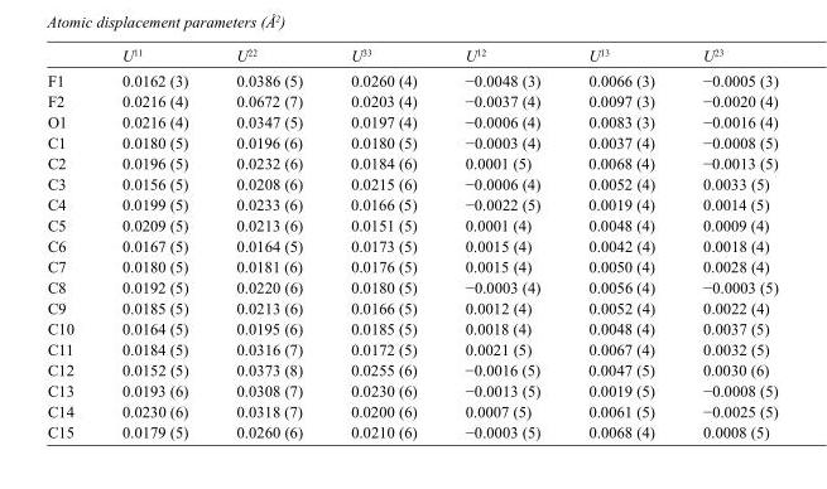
<table><thead><tr><td></td><td>U<sup>11</sup></td><td>U<sup>22</sup></td><td>U<sup>33</sup></td><td>U<sup>12</sup></td><td>U<sup>13</sup></td><td>U<sup>23</sup></td></tr></thead><tbody><tr><td>F1</td><td>0.0162 (3)</td><td>0.0386 (5)</td><td>0.0260 (4)</td><td>−0.0048 (3)</td><td>0.0066 (3)</td><td>−0.0005 (3)</td></tr><tr><td>F2</td><td>0.0216 (4)</td><td>0.0672 (7)</td><td>0.0203 (4)</td><td>−0.0037 (4)</td><td>0.0097 (3)</td><td>−0.0020 (4)</td></tr><tr><td>O1</td><td>0.0216 (4)</td><td>0.0347 (5)</td><td>0.0197 (4)</td><td>−0.0006 (4)</td><td>0.0083 (3)</td><td>−0.0016 (4)</td></tr><tr><td>C1</td><td>0.0180 (5)</td><td>0.0196 (6)</td><td>0.0180 (5)</td><td>−0.0003 (4)</td><td>0.0037 (4)</td><td>−0.0008 (5)</td></tr><tr><td>C2</td><td>0.0196 (5)</td><td>0.0232 (6)</td><td>0.0184 (6)</td><td>0.0001 (5)</td><td>0.0068 (4)</td><td>−0.0013 (5)</td></tr><tr><td>C3</td><td>0.0156 (5)</td><td>0.0208 (6)</td><td>0.0215 (6)</td><td>−0.0006 (4)</td><td>0.0052 (4)</td><td>0.0033 (5)</td></tr><tr><td>C4</td><td>0.0199 (5)</td><td>0.0233 (6)</td><td>0.0166 (5)</td><td>−0.0022 (5)</td><td>0.0019 (4)</td><td>0.0014 (5)</td></tr><tr><td>C5</td><td>0.0209 (5)</td><td>0.0213 (6)</td><td>0.0151 (5)</td><td>0.0001 (4)</td><td>0.0048 (4)</td><td>0.0009 (4)</td></tr><tr><td>C6</td><td>0.0167 (5)</td><td>0.0164 (5)</td><td>0.0173 (5)</td><td>0.0015 (4)</td><td>0.0042 (4)</td><td>0.0018 (4)</td></tr><tr><td>C7</td><td>0.0180 (5)</td><td>0.0181 (6)</td><td>0.0176 (5)</td><td>0.0015 (4)</td><td>0.0050 (4)</td><td>0.0028 (4)</td></tr><tr><td>C8</td><td>0.0192 (5)</td><td>0.0220 (6)</td><td>0.0180 (5)</td><td>−0.0003 (4)</td><td>0.0056 (4)</td><td>−0.0003 (5)</td></tr><tr><td>C9</td><td>0.0185 (5)</td><td>0.0213 (6)</td><td>0.0166 (5)</td><td>0.0012 (4)</td><td>0.0052 (4)</td><td>0.0022 (4)</td></tr><tr><td>C10</td><td>0.0164 (5)</td><td>0.0195 (6)</td><td>0.0185 (5)</td><td>0.0018 (4)</td><td>0.0048 (4)</td><td>0.0037 (5)</td></tr><tr><td>C11</td><td>0.0184 (5)</td><td>0.0316 (7)</td><td>0.0172 (5)</td><td>0.0021 (5)</td><td>0.0067 (4)</td><td>0.0032 (5)</td></tr><tr><td>C12</td><td>0.0152 (5)</td><td>0.0373 (8)</td><td>0.0255 (6)</td><td>−0.0016 (5)</td><td>0.0047 (5)</td><td>0.0030 (6)</td></tr><tr><td>C13</td><td>0.0193 (6)</td><td>0.0308 (7)</td><td>0.0230 (6)</td><td>−0.0013 (5)</td><td>0.0019 (5)</td><td>−0.0008 (5)</td></tr><tr><td>C14</td><td>0.0230 (6)</td><td>0.0318 (7)</td><td>0.0200 (6)</td><td>0.0007 (5)</td><td>0.0061 (5)</td><td>−0.0025 (5)</td></tr><tr><td>C15</td><td>0.0179 (5)</td><td>0.0260 (6)</td><td>0.0210 (6)</td><td>−0.0003 (5)</td><td>0.0068 (4)</td><td>0.0008 (5)</td></tr></tbody></table>